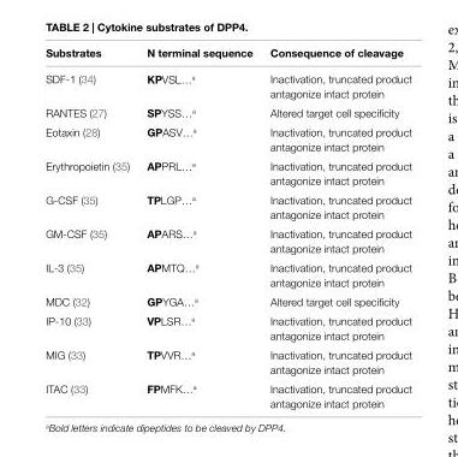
<table><thead><tr><td>Substrates</td><td>N terminal sequence</td><td>Consequence of cleavage</td></tr></thead><tbody><tr><td>SDF-1 (34)</td><td>KPVSL…<sup>a</sup></td><td>Inactivation, truncated product antagonize intact protein</td></tr><tr><td>RANTES (27)</td><td>SPYSS…<sup>a</sup></td><td>Altered target cell specificity</td></tr><tr><td>Eotaxin (28)</td><td>GPASV…<sup>a</sup></td><td>Inactivation, truncated product antagonize intact protein</td></tr><tr><td>Erythropoietin (35)</td><td>APPRL…<sup>a</sup></td><td>Inactivation, truncated product antagonize intact protein</td></tr><tr><td>G-CSF (35)</td><td>TPLGP…<sup>a</sup></td><td>Inactivation, truncated product antagonize intact protein</td></tr><tr><td>GM-CSF (35)</td><td>APARS…<sup>a</sup></td><td>Inactivation, truncated product antagonize intact protein</td></tr><tr><td>IL-3 (35)</td><td>APMTQ…<sup>a</sup></td><td>Inactivation, truncated product antagonize intact protein</td></tr><tr><td>MDC (32)</td><td>GPYGA…<sup>a</sup></td><td>Altered target cell specificity</td></tr><tr><td>IP-10 (33)</td><td>vPLSR…<sup>a</sup></td><td>Inactivation, truncated product antagonize intact protein</td></tr><tr><td>MIG (33)</td><td>TPVVR…<sup>a</sup></td><td>Inactivation, truncated product antagonize intact protein</td></tr><tr><td>ITAC (33)</td><td>FPMFK…<sup>a</sup></td><td>Inactivation, truncated product antagonize intact protein</td></tr></tbody></table>